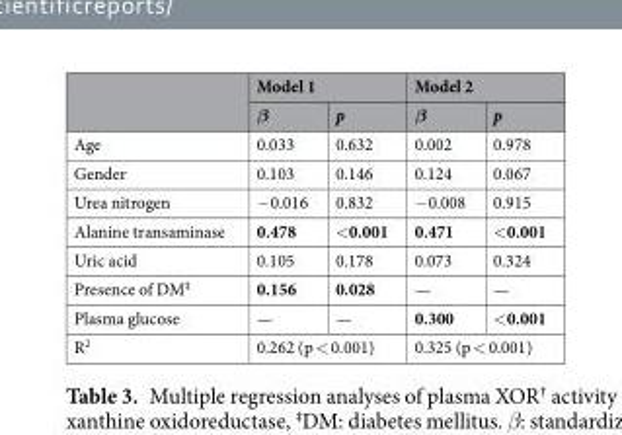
<table><thead><tr><td rowspan="2"></td><td colspan="2">Model 1</td><td colspan="2">Model 2</td></tr><tr><td>β</td><td>p</td><td>β</td><td>p</td></tr></thead><tbody><tr><td>Age</td><td>0.033</td><td>0.632</td><td>0.002</td><td>0.978</td></tr><tr><td>Gender</td><td>0.103</td><td>0.146</td><td>0.124</td><td>0.067</td></tr><tr><td>Urea nitrogen</td><td>−0.016</td><td>0.832</td><td>−0.008</td><td>0.915</td></tr><tr><td>Alanine transaminase</td><td>0.478</td><td>&lt;0.001</td><td>0.471</td><td>&lt;0.001</td></tr><tr><td>Uric acid</td><td>0.105</td><td>0.178</td><td>0.073</td><td>0.324</td></tr><tr><td>Presence of DM<sup>‡</sup></td><td>0.156</td><td>0.028</td><td>—</td><td>—</td></tr><tr><td>Plasma glucose</td><td>—</td><td>—</td><td>0.300</td><td>&lt;0.001</td></tr><tr><td>R<sup>2</sup></td><td colspan="2">0.262 (p &lt; 0.001)</td><td colspan="2">0.325 (p &lt; 0.001)</td></tr></tbody></table>